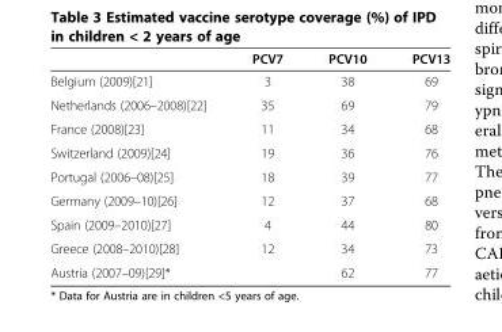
<table><thead><tr><td></td><td>PCV7</td><td>PCV10</td><td>PCV13</td></tr></thead><tbody><tr><td>Belgium (2009)[21]</td><td>3</td><td>38</td><td>69</td></tr><tr><td>Netherlands (2006–2008)[22]</td><td>35</td><td>69</td><td>79</td></tr><tr><td>France (2008)[23]</td><td>11</td><td>34</td><td>68</td></tr><tr><td>Switzerland (2009)[24]</td><td>19</td><td>36</td><td>76</td></tr><tr><td>Portugal (2006–08)[25]</td><td>18</td><td>39</td><td>77</td></tr><tr><td>Germany (2009–10)[26]</td><td>12</td><td>37</td><td>68</td></tr><tr><td>Spain (2009–2010)[27]</td><td>4</td><td>44</td><td>80</td></tr><tr><td>Greece (2008–2010)[28]</td><td>12</td><td>34</td><td>73</td></tr><tr><td>Austria (2007–09)[29]*</td><td></td><td>62</td><td>77</td></tr></tbody></table>